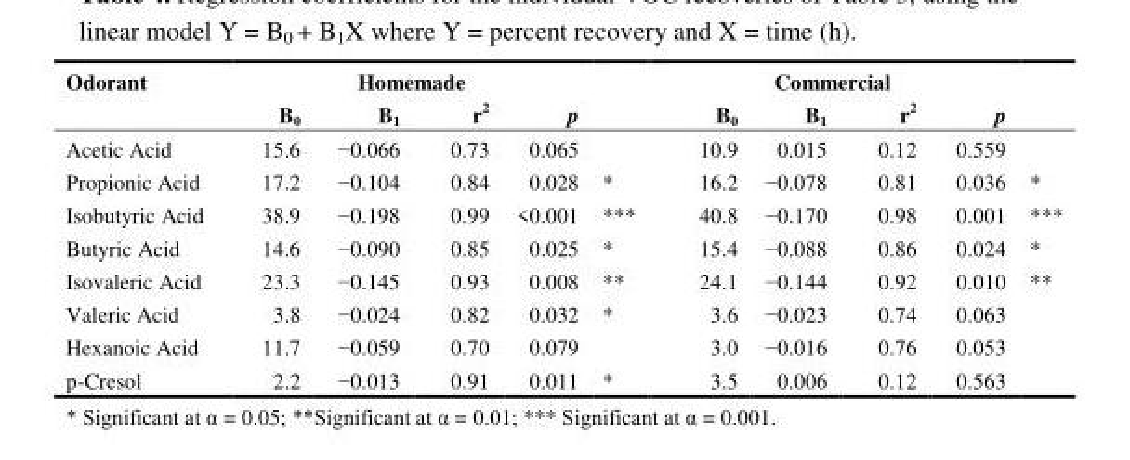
<table><thead><tr><td rowspan="2">Odorant</td><td colspan="4">Homemade</td><td rowspan="2"></td><td colspan="4">Commercial</td><td rowspan="2"></td></tr><tr><td>B<sub>0</sub></td><td>B<sub>1</sub></td><td>r<sup>2</sup></td><td>p</td><td>B<sub>0</sub></td><td>B<sub>1</sub></td><td>r<sup>2</sup></td><td>p</td></tr></thead><tbody><tr><td>Acetic Acid</td><td>15.6</td><td>−0.066</td><td>0.73</td><td>0.065</td><td></td><td>10.9</td><td>0.015</td><td>0.12</td><td>0.559</td><td></td></tr><tr><td>Propionic Acid</td><td>17.2</td><td>−0.104</td><td>0.84</td><td>0.028</td><td>*</td><td>16.2</td><td>−0.078</td><td>0.81</td><td>0.036</td><td>*</td></tr><tr><td>Isobutyric Acid</td><td>38.9</td><td>−0.198</td><td>0.99</td><td>&lt;0.001</td><td>***</td><td>40.8</td><td>−0.170</td><td>0.98</td><td>0.001</td><td>***</td></tr><tr><td>Butyric Acid</td><td>14.6</td><td>−0.090</td><td>0.85</td><td>0.025</td><td>*</td><td>15.4</td><td>−0.088</td><td>0.86</td><td>0.024</td><td>*</td></tr><tr><td>Isovaleric Acid</td><td>23.3</td><td>−0.145</td><td>0.93</td><td>0.008</td><td>**</td><td>24.1</td><td>−0.144</td><td>0.92</td><td>0.010</td><td>**</td></tr><tr><td>Valeric Acid</td><td>3.8</td><td>−0.024</td><td>0.82</td><td>0.032</td><td>*</td><td>3.6</td><td>−0.023</td><td>0.74</td><td>0.063</td><td></td></tr><tr><td>Hexanoic Acid</td><td>11.7</td><td>−0.059</td><td>0.70</td><td>0.079</td><td></td><td>3.0</td><td>−0.016</td><td>0.76</td><td>0.053</td><td></td></tr><tr><td>p-Cresol</td><td>2.2</td><td>−0.013</td><td>0.91</td><td>0.011</td><td>*</td><td>3.5</td><td>0.006</td><td>0.12</td><td>0.563</td><td></td></tr></tbody></table>